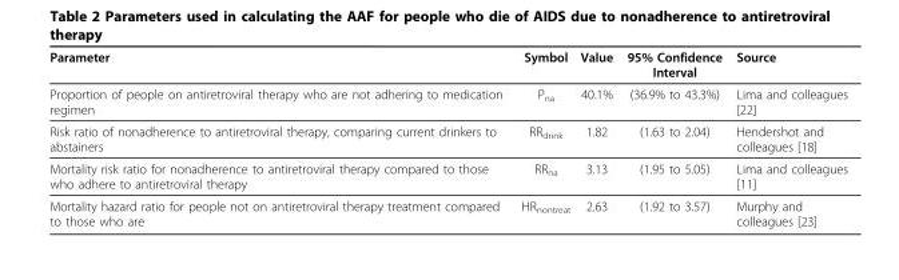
<table><thead><tr><td>Parameter</td><td>Symbol</td><td>Value</td><td>95% Confidence Interval</td><td>Source</td></tr></thead><tbody><tr><td>Proportion of people on antiretroviral therapy who are not adhering to medication regimen</td><td>P<sub>na</sub></td><td>40.1%</td><td>(36.9% to 43.3%)</td><td>Lima and colleagues [22]</td></tr><tr><td>Risk ratio of nonadherence to antiretroviral therapy, comparing current drinkers to abstainers</td><td>RR<sub>drink</sub></td><td>1.82</td><td>(1.63 to 2.04)</td><td>Hendershot and colleagues [18]</td></tr><tr><td>Mortality risk ratio for nonadherence to antiretroviral therapy compared to those who adhere to antiretroviral therapy</td><td>RR<sub>na</sub></td><td>3.13</td><td>(1.95 to 5.05)</td><td>Lima and colleagues [11]</td></tr><tr><td>Mortality hazard ratio for people not on antiretroviral therapy treatment compared to those who are</td><td>HR<sub>nontreat</sub></td><td>2.63</td><td>(1.92 to 3.57)</td><td>Murphy and colleagues [23]</td></tr></tbody></table>